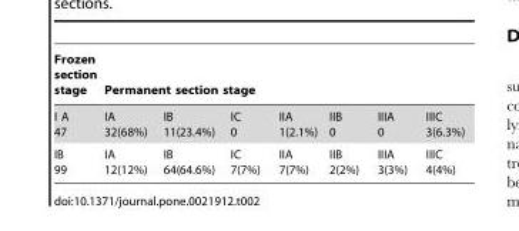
<table><thead><tr><td rowspan="2">Frozen section stage I A 47</td><td colspan="7">Permanent section stage</td></tr><tr><td>IA 32(68%)</td><td>IB 11(23.4%)</td><td>IC 0</td><td>IIA 1(2.1%)</td><td>IIB 0</td><td>IIIA 0</td><td>IIIC 3(6.3%)</td></tr></thead><tbody><tr><td>IB 99</td><td>IA 12(12%)</td><td>IB 64(64.6%)</td><td>IC 7(7%)</td><td>IIA 7(7%)</td><td>IIB 2(2%)</td><td>IIIA 3(3%)</td><td>IIIC 4(4%)</td></tr></tbody></table>